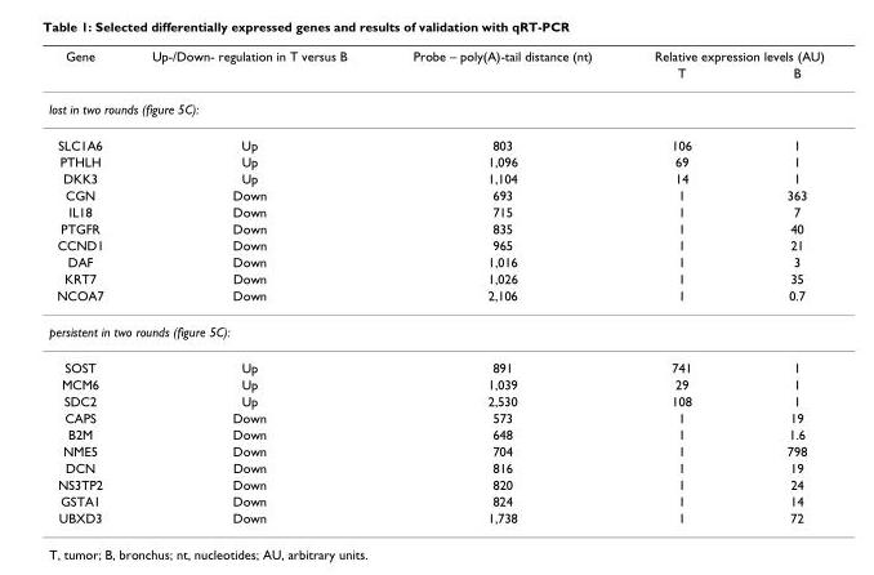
<table><thead><tr><td rowspan="2">Gene</td><td rowspan="2">Up-/Down- regulation in T versus B</td><td rowspan="2">Probe – poly(A)-tail distance (nt)</td><td colspan="2">Relative expression levels (AU)</td></tr><tr><td>T</td><td>B</td></tr></thead><tbody><tr><td colspan="5">lost in two rounds (figure 5C):</td></tr><tr><td>SLC1A6</td><td>Up</td><td>803</td><td>106</td><td>1</td></tr><tr><td>PTHLH</td><td>Up</td><td>1,096</td><td>69</td><td>1</td></tr><tr><td>DKK3</td><td>Up</td><td>1,104</td><td>14</td><td>1</td></tr><tr><td>CGN</td><td>Down</td><td>693</td><td>1</td><td>363</td></tr><tr><td>IL18</td><td>Down</td><td>715</td><td>1</td><td>7</td></tr><tr><td>PTGFR</td><td>Down</td><td>835</td><td>1</td><td>40</td></tr><tr><td>CCND1</td><td>Down</td><td>965</td><td>1</td><td>21</td></tr><tr><td>DAF</td><td>Down</td><td>1,016</td><td>1</td><td>3</td></tr><tr><td>KRT7</td><td>Down</td><td>1,026</td><td>1</td><td>35</td></tr><tr><td>NCOA7</td><td>Down</td><td>2,106</td><td>1</td><td>0.7</td></tr><tr><td colspan="5">persistent in two rounds (figure 5C):</td></tr><tr><td>SOST</td><td>Up</td><td>891</td><td>741</td><td>1</td></tr><tr><td>MCM6</td><td>Up</td><td>1,039</td><td>29</td><td>1</td></tr><tr><td>SDC2</td><td>Up</td><td>2,530</td><td>108</td><td>1</td></tr><tr><td>CAPS</td><td>Down</td><td>573</td><td>1</td><td>19</td></tr><tr><td>B2M</td><td>Down</td><td>648</td><td>1</td><td>1.6</td></tr><tr><td>NME5</td><td>Down</td><td>704</td><td>1</td><td>798</td></tr><tr><td>DCN</td><td>Down</td><td>816</td><td>1</td><td>19</td></tr><tr><td>NS3TP2</td><td>Down</td><td>820</td><td>1</td><td>24</td></tr><tr><td>GSTA1</td><td>Down</td><td>824</td><td>1</td><td>14</td></tr><tr><td>UBXD3</td><td>Down</td><td>1,738</td><td>1</td><td>72</td></tr></tbody></table>